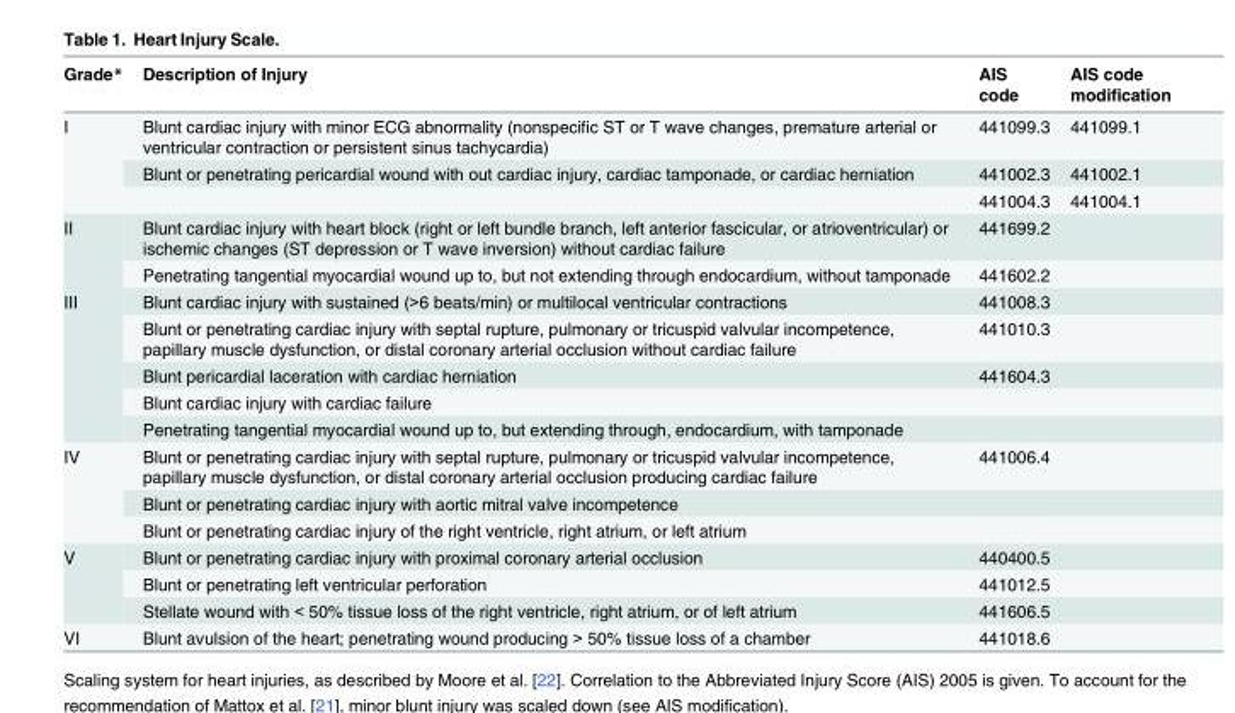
<table><thead><tr><td>Grade*</td><td>Description of Injury</td><td>AIS code</td><td>AIS code modification</td></tr></thead><tbody><tr><td rowspan="3">I</td><td>Blunt cardiac injury with minor ECG abnormality (nonspecific ST or T wave changes, premature arterial or ventricular contraction or persistent sinus tachycardia)</td><td>441099.3</td><td>441099.1</td></tr><tr><td>Blunt or penetrating pericardial wound with out cardiac injury, cardiac tamponade, or cardiac herniation</td><td>441002.3</td><td>441002.1</td></tr><tr><td></td><td>441004.3</td><td>441004.1</td></tr><tr><td rowspan="2">II</td><td>Blunt cardiac injury with heart block (right or left bundle branch, left anterior fascicular, or atrioventricular) or ischemic changes (ST depression or T wave inversion) without cardiac failure</td><td>441699.2</td><td></td></tr><tr><td>Penetrating tangential myocardial wound up to, but not extending through endocardium, without tamponade</td><td>441602.2</td><td></td></tr><tr><td rowspan="5">III</td><td>Blunt cardiac injury with sustained (&gt;6 beats/min) or multilocal ventricular contractions</td><td>441008.3</td><td></td></tr><tr><td>Blunt or penetrating cardiac injury with septal rupture, pulmonary or tricuspid valvular incompetence, papillary muscle dysfunction, or distal coronary arterial occlusion without cardiac failure</td><td>441010.3</td><td></td></tr><tr><td>Blunt pericardial laceration with cardiac herniation</td><td>441604.3</td><td></td></tr><tr><td>Blunt cardiac injury with cardiac failure</td><td></td><td></td></tr><tr><td>Penetrating tangential myocardial wound up to, but extending through, endocardium, with tamponade</td><td></td><td></td></tr><tr><td rowspan="3">IV</td><td>Blunt or penetrating cardiac injury with septal rupture, pulmonary or tricuspid valvular incompetence, papillary muscle dysfunction, or distal coronary arterial occlusion producing cardiac failure</td><td>441006.4</td><td></td></tr><tr><td>Blunt or penetrating cardiac injury with aortic mitral valve incompetence</td><td></td><td></td></tr><tr><td>Blunt or penetrating cardiac injury of the right ventricle, right atrium, or left atrium</td><td></td><td></td></tr><tr><td rowspan="3">V</td><td>Blunt or penetrating cardiac injury with proximal coronary arterial occlusion</td><td>440400.5</td><td></td></tr><tr><td>Blunt or penetrating left ventricular perforation</td><td>441012.5</td><td></td></tr><tr><td>Stellate wound with &lt; 50% tissue loss of the right ventricle, right atrium, or of left atrium</td><td>441606.5</td><td></td></tr><tr><td>VI</td><td>Blunt avulsion of the heart; penetrating wound producing &gt; 50% tissue loss of a chamber</td><td>441018.6</td><td></td></tr></tbody></table>